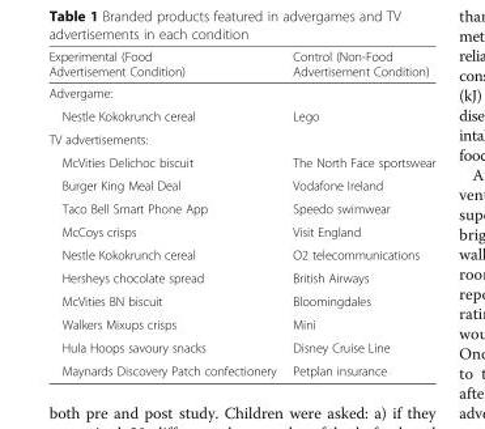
<table><thead><tr><td>Experimental (Food Advertisement Condition)</td><td>Control (Non-Food Advertisement Condition)</td></tr></thead><tbody><tr><td colspan="2">Advergame:</td></tr><tr><td>Nestle Kokokrunch cereal</td><td>Lego</td></tr><tr><td colspan="2">TV advertisements:</td></tr><tr><td>McVities Delichoc biscuit</td><td>The North Face sportswear</td></tr><tr><td>Burger King Meal Deal</td><td>Vodafone Ireland</td></tr><tr><td>Taco Bell Smart Phone App</td><td>Speedo swimwear</td></tr><tr><td>McCoys crisps</td><td>Visit England</td></tr><tr><td>Nestle Kokokrunch cereal</td><td>O2 telecommunications</td></tr><tr><td>Hersheys chocolate spread</td><td>British Airways</td></tr><tr><td>McVities BN biscuit</td><td>Bloomingdales</td></tr><tr><td>Walkers Mixups crisps</td><td>Mini</td></tr><tr><td>Hula Hoops savoury snacks</td><td>Disney Cruise Line</td></tr><tr><td>Maynards Discovery Patch confectionery</td><td>Petplan insurance</td></tr></tbody></table>